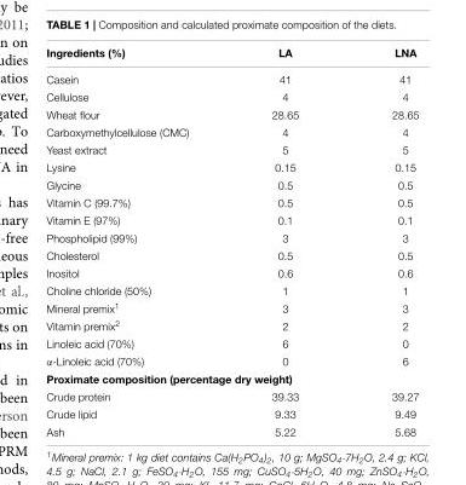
<table><thead><tr><td>Ingredients (%)</td><td>LA</td><td>LNA</td></tr></thead><tbody><tr><td>Casein</td><td>41</td><td>41</td></tr><tr><td>Cellulose</td><td>4</td><td>4</td></tr><tr><td>Wheat flour</td><td>28.65</td><td>28.65</td></tr><tr><td>Carboxymethylcellulose (CMC)</td><td>4</td><td>4</td></tr><tr><td>Yeast extract</td><td>5</td><td>5</td></tr><tr><td>Lysine</td><td>0.15</td><td>0.15</td></tr><tr><td>Glycine</td><td>0.5</td><td>0.5</td></tr><tr><td>Vitamin C (99.7%)</td><td>0.5</td><td>0.5</td></tr><tr><td>Vitamin E (97%)</td><td>0.1</td><td>0.1</td></tr><tr><td>Phospholipid (99%)</td><td>3</td><td>3</td></tr><tr><td>Cholesterol</td><td>0.5</td><td>0.5</td></tr><tr><td>Inositol</td><td>0.6</td><td>0.6</td></tr><tr><td>Choline chloride (50%)</td><td>1</td><td>1</td></tr><tr><td>Mineral premix<sup>1</sup></td><td>3</td><td>3</td></tr><tr><td>Vitamin premix<sup>2</sup></td><td>2</td><td>2</td></tr><tr><td>Linoleic acid (70%)</td><td>6</td><td>0</td></tr><tr><td>α-Linoleic acid (70%)</td><td>0</td><td>6</td></tr><tr><td colspan="3">Proximate composition (percentage dry weight)</td></tr><tr><td>Crude protein</td><td>39.33</td><td>39.27</td></tr><tr><td>Crude lipid</td><td>9.33</td><td>9.49</td></tr><tr><td>Ash</td><td>5.22</td><td>5.68</td></tr></tbody></table>